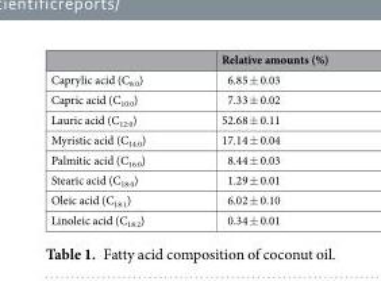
<table><thead><tr><td></td><td>Relative amounts (%)</td></tr></thead><tbody><tr><td>Caprylic acid (C<sub>8:0</sub>)</td><td>6.85 ± 0.03</td></tr><tr><td>Capric acid (C<sub>10:0</sub>)</td><td>7.33 ± 0.02</td></tr><tr><td>Lauric acid (C<sub>12:0</sub>)</td><td>52.68 ± 0.11</td></tr><tr><td>Myristic acid (C<sub>14:0</sub>)</td><td>17.14 ± 0.04</td></tr><tr><td>Palmitic acid (C<sub>16:0</sub>)</td><td>8.44 ± 0.03</td></tr><tr><td>Stearic acid (C<sub>18:0</sub>)</td><td>1.29 ± 0.01</td></tr><tr><td>Oleic acid (C<sub>18:1</sub>)</td><td>6.02 ± 0.10</td></tr><tr><td>Linoleic acid (C<sub>18:2</sub>)</td><td>0.34 ± 0.01</td></tr></tbody></table>